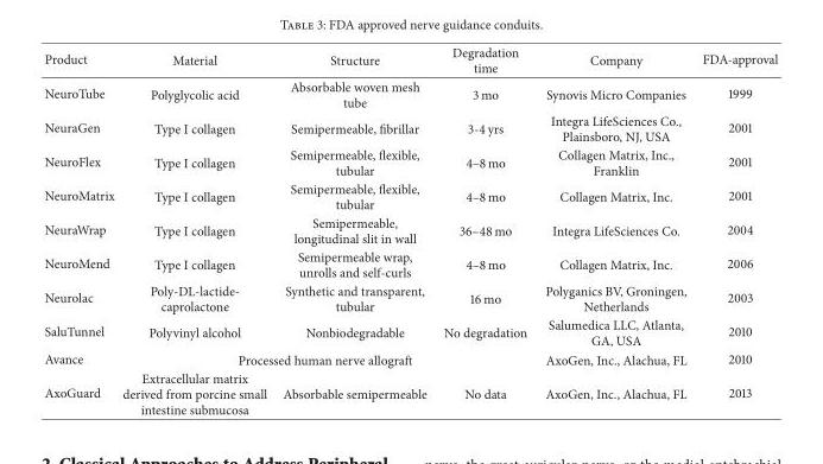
<table><thead><tr><td>Product</td><td>Material</td><td>Structure</td><td>Degradation time</td><td>Company</td><td>FDA-approval</td></tr></thead><tbody><tr><td>NeuroTube</td><td>Polyglycolic acid</td><td>Absorbable woven mesh tube</td><td>3 mo</td><td>Synovis Micro Companies</td><td>1999</td></tr><tr><td>NeuraGen</td><td>Type I collagen</td><td>Semipermeable, fibrillar</td><td>3-4 yrs</td><td>Integra LifeSciences Co., Plainsboro, NJ, USA</td><td>2001</td></tr><tr><td>NeuroFlex</td><td>Type I collagen</td><td>Semipermeable, flexible, tubular</td><td>4–8 mo</td><td>Collagen Matrix, Inc., Franklin</td><td>2001</td></tr><tr><td>NeuroMatrix</td><td>Type I collagen</td><td>Semipermeable, flexible, tubular</td><td>4–8 mo</td><td>Collagen Matrix, Inc.</td><td>2001</td></tr><tr><td>NeuraWrap</td><td>Type I collagen</td><td>Semipermeable, longitudinal slit in wall</td><td>36–48 mo</td><td>Integra LifeSciences Co.</td><td>2004</td></tr><tr><td>NeuroMend</td><td>Type I collagen</td><td>Semipermeable wrap, unrolls and self-curls</td><td>4–8 mo</td><td>Collagen Matrix, Inc.</td><td>2006</td></tr><tr><td>Neurolac</td><td>Poly-DL-lactide- caprolactone</td><td>Synthetic and transparent, tubular</td><td>16 mo</td><td>Polyganics BV, Groningen, Netherlands</td><td>2003</td></tr><tr><td>SaluTunnel</td><td>Polyvinyl alcohol</td><td>Nonbiodegradable</td><td>No degradation</td><td>Salumedica LLC, Atlanta, GA, USA</td><td>2010</td></tr><tr><td>Avance</td><td colspan="3">Processed human nerve allograft</td><td>AxoGen, Inc., Alachua, FL</td><td>2010</td></tr><tr><td>AxoGuard</td><td>Extracellular matrix derived from porcine small intestine submucosa</td><td>Absorbable semipermeable</td><td>No data</td><td>AxoGen, Inc., Alachua, FL</td><td>2013</td></tr></tbody></table>